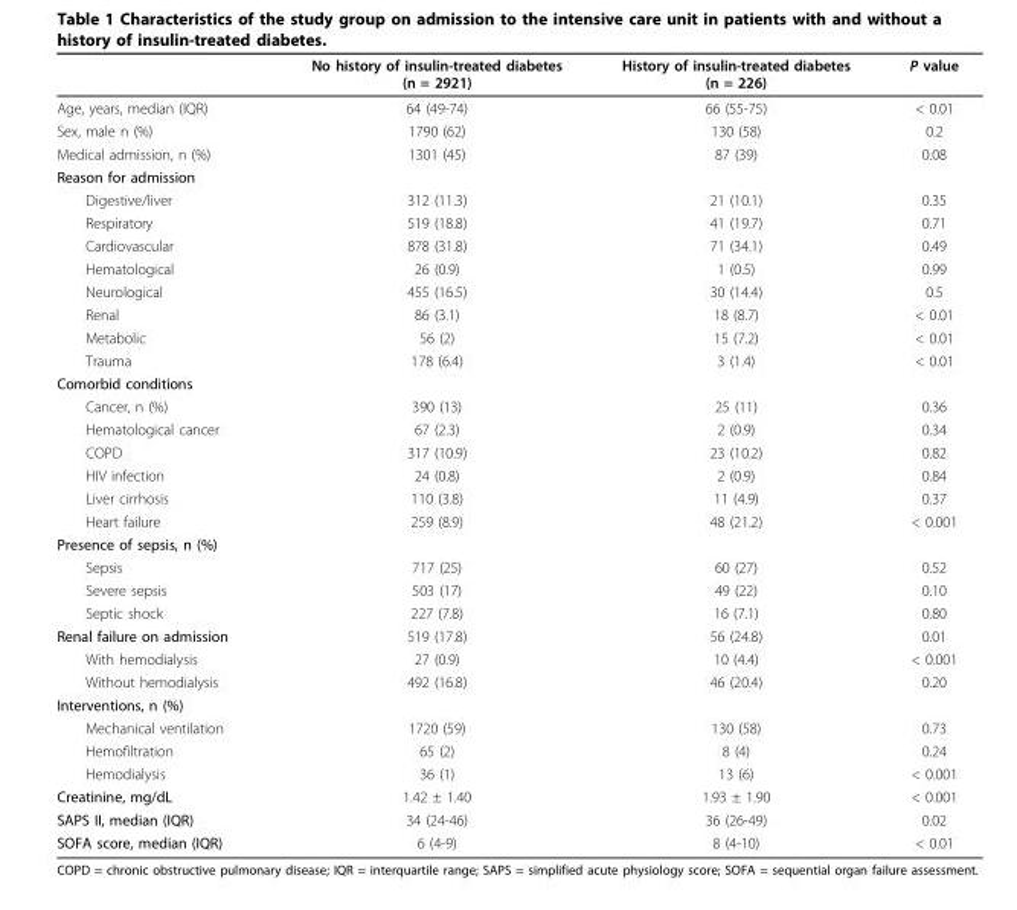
<table><thead><tr><td></td><td>No history of insulin-treated diabetes (n = 2921)</td><td>History of insulin-treated diabetes (n = 226)</td><td>P value</td></tr></thead><tbody><tr><td>Age, years, median (IQR)</td><td>64 (49-74)</td><td>66 (55-75)</td><td>&lt; 0.01</td></tr><tr><td>Sex, male n (%)</td><td>1790 (62)</td><td>130 (58)</td><td>0.2</td></tr><tr><td>Medical admission, n (%)</td><td>1301 (45)</td><td>87 (39)</td><td>0.08</td></tr><tr><td colspan="4">Reason for admission</td></tr><tr><td>Digestive/liver</td><td>312 (11.3)</td><td>21 (10.1)</td><td>0.35</td></tr><tr><td>Respiratory</td><td>519 (18.8)</td><td>41 (19.7)</td><td>0.71</td></tr><tr><td>Cardiovascular</td><td>878 (31.8)</td><td>71 (34.1)</td><td>0.49</td></tr><tr><td>Hematological</td><td>26 (0.9)</td><td>1 (0.5)</td><td>0.99</td></tr><tr><td>Neurological</td><td>455 (16.5)</td><td>30 (14.4)</td><td>0.5</td></tr><tr><td>Renal</td><td>86 (3.1)</td><td>18 (8.7)</td><td>&lt; 0.01</td></tr><tr><td>Metabolic</td><td>56 (2)</td><td>15 (7.2)</td><td>&lt; 0.01</td></tr><tr><td>Trauma</td><td>178 (6.4)</td><td>3 (1.4)</td><td>&lt; 0.01</td></tr><tr><td colspan="4">Comorbid conditions</td></tr><tr><td>Cancer, n (%)</td><td>390 (13)</td><td>25 (11)</td><td>0.36</td></tr><tr><td>Hematological cancer</td><td>67 (2.3)</td><td>2 (0.9)</td><td>0.34</td></tr><tr><td>COPD</td><td>317 (10.9)</td><td>23 (10.2)</td><td>0.82</td></tr><tr><td>HIV infection</td><td>24 (0.8)</td><td>2 (0.9)</td><td>0.84</td></tr><tr><td>Liver cirrhosis</td><td>110 (3.8)</td><td>11 (4.9)</td><td>0.37</td></tr><tr><td>Heart failure</td><td>259 (8.9)</td><td>48 (21.2)</td><td>&lt; 0.001</td></tr><tr><td colspan="4">Presence of sepsis, n (%)</td></tr><tr><td>Sepsis</td><td>717 (25)</td><td>60 (27)</td><td>0.52</td></tr><tr><td>Severe sepsis</td><td>503 (17)</td><td>49 (22)</td><td>0.10</td></tr><tr><td>Septic shock</td><td>227 (7.8)</td><td>16 (7.1)</td><td>0.80</td></tr><tr><td>Renal failure on admission</td><td>519 (17.8)</td><td>56 (24.8)</td><td>0.01</td></tr><tr><td>With hemodialysis</td><td>27 (0.9)</td><td>10 (4.4)</td><td>&lt; 0.001</td></tr><tr><td>Without hemodialysis</td><td>492 (16.8)</td><td>46 (20.4)</td><td>0.20</td></tr><tr><td colspan="4">Interventions, n (%)</td></tr><tr><td>Mechanical ventilation</td><td>1720 (59)</td><td>130 (58)</td><td>0.73</td></tr><tr><td>Hemofiltration</td><td>65 (2)</td><td>8 (4)</td><td>0.24</td></tr><tr><td>Hemodialysis</td><td>36 (1)</td><td>13 (6)</td><td>&lt; 0.001</td></tr><tr><td>Creatinine, mg/dL</td><td>1.42 ± 1.40</td><td>1.93 ± 1.90</td><td>&lt; 0.001</td></tr><tr><td>SAPS II, median (IQR)</td><td>34 (24-46)</td><td>36 (26-49)</td><td>0.02</td></tr><tr><td>SOFA score, median (IQR)</td><td>6 (4-9)</td><td>8 (4-10)</td><td>&lt; 0.01</td></tr></tbody></table>